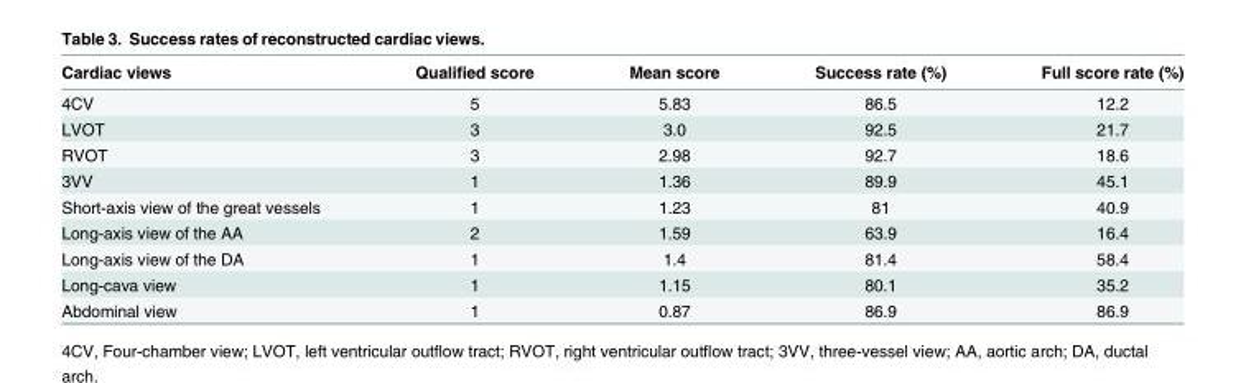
<table><thead><tr><td>Cardiac views</td><td>Qualified score</td><td>Mean score</td><td>Success rate (%)</td><td>Full score rate (%)</td></tr></thead><tbody><tr><td>4CV</td><td>5</td><td>5.83</td><td>86.5</td><td>12.2</td></tr><tr><td>LVOT</td><td>3</td><td>3.0</td><td>92.5</td><td>21.7</td></tr><tr><td>RVOT</td><td>3</td><td>2.98</td><td>92.7</td><td>18.6</td></tr><tr><td>3VV</td><td>1</td><td>1.36</td><td>89.9</td><td>45.1</td></tr><tr><td>Short-axis view of the great vessels</td><td>1</td><td>1.23</td><td>81</td><td>40.9</td></tr><tr><td>Long-axis view of the AA</td><td>2</td><td>1.59</td><td>63.9</td><td>16.4</td></tr><tr><td>Long-axis view of the DA</td><td>1</td><td>1.4</td><td>81.4</td><td>58.4</td></tr><tr><td>Long-cava view</td><td>1</td><td>1.15</td><td>80.1</td><td>35.2</td></tr><tr><td>Abdominal view</td><td>1</td><td>0.87</td><td>86.9</td><td>86.9</td></tr></tbody></table>